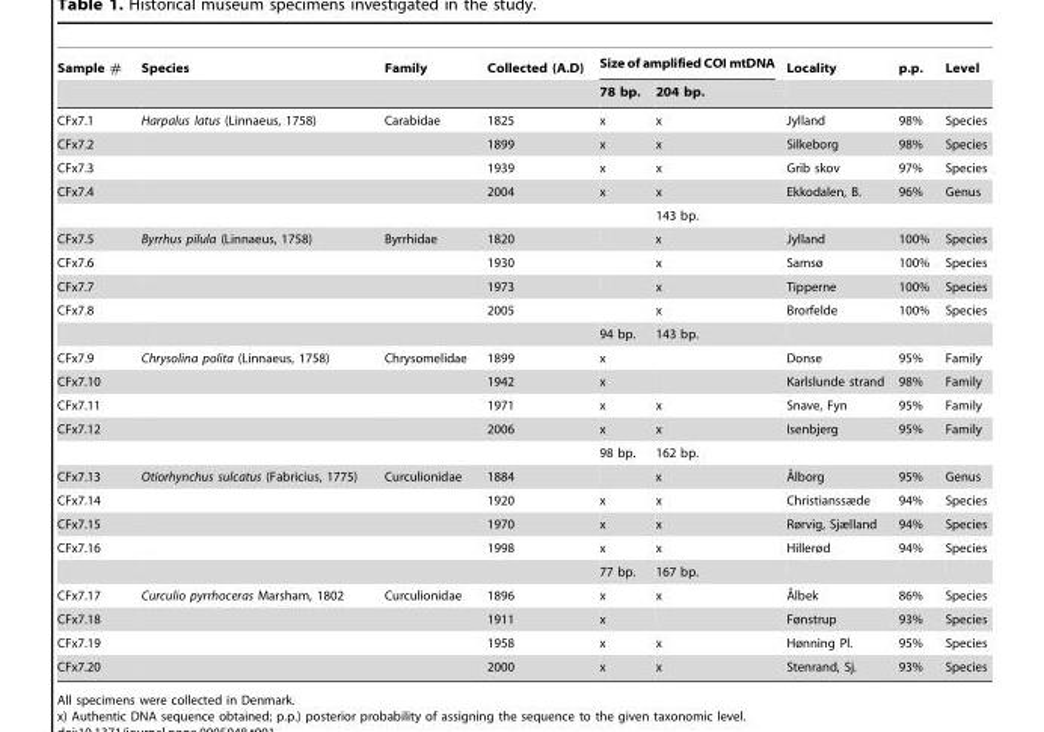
<table><thead><tr><td rowspan="2">Sample #</td><td rowspan="2">Species</td><td rowspan="2">Family</td><td rowspan="2">Collected (A.D)</td><td colspan="2">Size of amplified COI mtDNA</td><td rowspan="2">Locality</td><td rowspan="2">p.p.</td><td rowspan="2">Level</td></tr><tr><td>78 bp.</td><td>204 bp.</td></tr></thead><tbody><tr><td>CFx7.1</td><td>Harpalus latus (Linnaeus, 1758)</td><td>Carabidae</td><td>1825</td><td>x</td><td>x</td><td>Jylland</td><td>98%</td><td>Species</td></tr><tr><td>CFx7.2</td><td></td><td></td><td>1899</td><td>x</td><td>x</td><td>Silkeborg</td><td>98%</td><td>Species</td></tr><tr><td>CFx7.3</td><td></td><td></td><td>1939</td><td>x</td><td>x</td><td>Grib skov</td><td>97%</td><td>Species</td></tr><tr><td rowspan="2">CFx7.4</td><td></td><td></td><td>2004</td><td>x</td><td>x</td><td>Ekkodalen, B.</td><td>96%</td><td>Genus</td></tr><tr><td></td><td></td><td></td><td></td><td>143 bp.</td><td></td><td></td><td></td></tr><tr><td>CFx7.5</td><td>Byrrhus pilula (Linnaeus, 1758)</td><td>Byrrhidae</td><td>1820</td><td></td><td>x</td><td>Jylland</td><td>100%</td><td>Species</td></tr><tr><td>CFx7.6</td><td></td><td></td><td>1930</td><td></td><td>x</td><td>Samsø</td><td>100%</td><td>Species</td></tr><tr><td>CFx7.7</td><td></td><td></td><td>1973</td><td></td><td>x</td><td>Tipperne</td><td>100%</td><td>Species</td></tr><tr><td rowspan="2">CFx7.8</td><td></td><td></td><td>2005</td><td></td><td>x</td><td>Brorfelde</td><td>100%</td><td>Species</td></tr><tr><td></td><td></td><td></td><td>94 bp.</td><td>143 bp.</td><td></td><td></td><td></td></tr><tr><td>CFx7.9</td><td>Chrysolina polita (Linnaeus, 1758)</td><td>Chrysomelidae</td><td>1899</td><td>x</td><td></td><td>Donse</td><td>95%</td><td>Family</td></tr><tr><td>CFx7.10</td><td></td><td></td><td>1942</td><td>x</td><td></td><td>Karlslunde strand</td><td>98%</td><td>Family</td></tr><tr><td>CFx7.11</td><td></td><td></td><td>1971</td><td>x</td><td>x</td><td>Snave, Fyn</td><td>95%</td><td>Family</td></tr><tr><td rowspan="2">CFx7.12</td><td></td><td></td><td>2006</td><td>x</td><td>x</td><td>Isenbjerg</td><td>95%</td><td>Family</td></tr><tr><td></td><td></td><td></td><td>98 bp.</td><td>162 bp.</td><td></td><td></td><td></td></tr><tr><td>CFx7.13</td><td>Otiorhynchus sulcatus (Fabricius, 1775)</td><td>Curculionidae</td><td>1884</td><td></td><td>x</td><td>A˚lborg</td><td>95%</td><td>Genus</td></tr><tr><td>CFx7.14</td><td></td><td></td><td>1920</td><td>x</td><td>x</td><td>Christianssæde</td><td>94%</td><td>Species</td></tr><tr><td>CFx7.15</td><td></td><td></td><td>1970</td><td>x</td><td>x</td><td>Rørvig, Sjælland</td><td>94%</td><td>Species</td></tr><tr><td rowspan="2">CFx7.16</td><td></td><td></td><td>1998</td><td>x</td><td>x</td><td>Hillerød</td><td>94%</td><td>Species</td></tr><tr><td></td><td></td><td></td><td>77 bp.</td><td>167 bp.</td><td></td><td></td><td></td></tr><tr><td>CFx7.17</td><td>Curculio pyrrhoceras Marsham, 1802</td><td>Curculionidae</td><td>1896</td><td>x</td><td>x</td><td>A˚lbek</td><td>86%</td><td>Species</td></tr><tr><td>CFx7.18</td><td></td><td></td><td>1911</td><td>x</td><td></td><td>Fønstrup</td><td>93%</td><td>Species</td></tr><tr><td>CFx7.19</td><td></td><td></td><td>1958</td><td>x</td><td>x</td><td>Hønning Pl.</td><td>95%</td><td>Species</td></tr><tr><td>CFx7.20</td><td></td><td></td><td>2000</td><td>x</td><td>x</td><td>Stenrand, Sj.</td><td>93%</td><td>Species</td></tr></tbody></table>